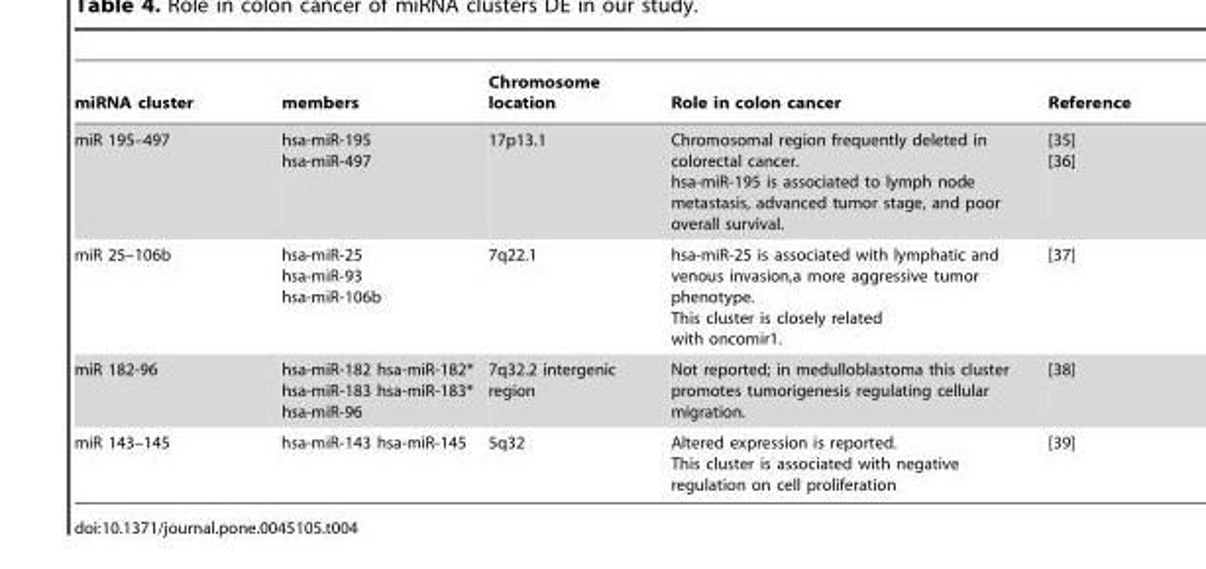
<table><thead><tr><td>miRNA cluster</td><td>members</td><td>Chromosome location</td><td>Role in colon cancer</td><td>Reference</td></tr></thead><tbody><tr><td>miR 195–497</td><td>hsa-miR-195 hsa-miR-497</td><td>17p13.1</td><td>Chromosomal region frequently deleted in colorectal cancer. hsa-miR-195 is associated to lymph node metastasis, advanced tumor stage, and poor overall survival.</td><td>[35] [36]</td></tr><tr><td>miR 25–106b</td><td>hsa-miR-25 hsa-miR-93 hsa-miR-106b</td><td>7q22.1</td><td>hsa-miR-25 is associated with lymphatic and venous invasion,a more aggressive tumor phenotype. This cluster is closely related with oncomir1.</td><td>[37]</td></tr><tr><td>miR 182-96</td><td>hsa-miR-182 hsa-miR-182* hsa-miR-183 hsa-miR-183* hsa-miR-96</td><td>7q32.2 intergenic region</td><td>Not reported; in medulloblastoma this cluster promotes tumorigenesis regulating cellular migration.</td><td>[38]</td></tr><tr><td>miR 143–145</td><td>hsa-miR-143 hsa-miR-145</td><td>5q32</td><td>Altered expression is reported. This cluster is associated with negative regulation on cell proliferation</td><td>[39]</td></tr></tbody></table>